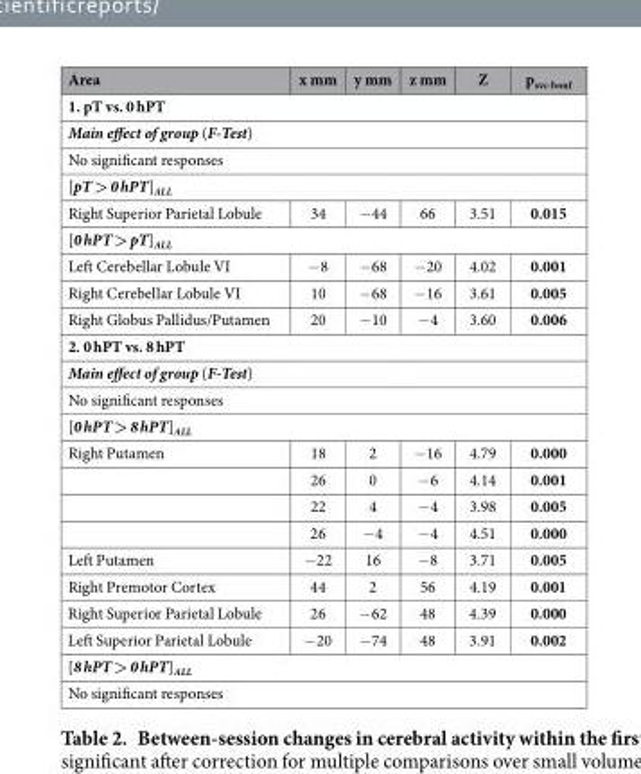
<table><thead><tr><td>Area</td><td>x mm</td><td>y mm</td><td>z mm</td><td>Z</td><td>p<sub>svc-bonf</sub></td></tr></thead><tbody><tr><td colspan="6">1. pT vs. 0 hPT</td></tr><tr><td colspan="6">Main effect of group (F-Test)</td></tr><tr><td colspan="6">No significant responses</td></tr><tr><td colspan="6">[pT &gt; 0 hPT]<sub>ALL</sub></td></tr><tr><td>Right Superior Parietal Lobule</td><td>34</td><td>− 44</td><td>66</td><td>3.51</td><td>0.015</td></tr><tr><td colspan="6">[0 hPT &gt; pT]<sub>ALL</sub></td></tr><tr><td>Left Cerebellar Lobule VI</td><td>− 8</td><td>− 68</td><td>− 20</td><td>4.02</td><td>0.001</td></tr><tr><td>Right Cerebellar Lobule VI</td><td>10</td><td>− 68</td><td>− 16</td><td>3.61</td><td>0.005</td></tr><tr><td>Right Globus Pallidus/Putamen</td><td>20</td><td>− 10</td><td>− 4</td><td>3.60</td><td>0.006</td></tr><tr><td colspan="6">2. 0 hPT vs. 8 hPT</td></tr><tr><td colspan="6">Main effect of group (F-Test)</td></tr><tr><td colspan="6">No significant responses</td></tr><tr><td colspan="6">[0 hPT &gt; 8 hPT]<sub>ALL</sub></td></tr><tr><td rowspan="4">Right Putamen</td><td>18</td><td>2</td><td>− 16</td><td>4.79</td><td>0.000</td></tr><tr><td>26</td><td>0</td><td>− 6</td><td>4.14</td><td>0.001</td></tr><tr><td>22</td><td>4</td><td>− 4</td><td>3.98</td><td>0.005</td></tr><tr><td>26</td><td>− 4</td><td>− 4</td><td>4.51</td><td>0.000</td></tr><tr><td>Left Putamen</td><td>− 22</td><td>16</td><td>− 8</td><td>3.71</td><td>0.005</td></tr><tr><td>Right Premotor Cortex</td><td>44</td><td>2</td><td>56</td><td>4.19</td><td>0.001</td></tr><tr><td>Right Superior Parietal Lobule</td><td>26</td><td>− 62</td><td>48</td><td>4.39</td><td>0.000</td></tr><tr><td>Left Superior Parietal Lobule</td><td>− 20</td><td>− 74</td><td>48</td><td>3.91</td><td>0.002</td></tr><tr><td colspan="6">[8 hPT &gt; 0 hPT]<sub>ALL</sub></td></tr><tr><td colspan="6">No significant responses</td></tr></tbody></table>